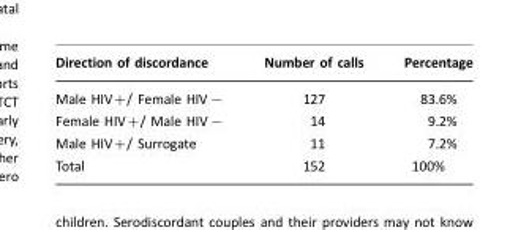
<table><thead><tr><td>Direction of discordance</td><td>Number of calls</td><td>Percentage</td></tr></thead><tbody><tr><td>Male HIV+/ Female HIV−</td><td>127</td><td>83.6%</td></tr><tr><td>Female HIV+/ Male HIV−</td><td>14</td><td>9.2%</td></tr><tr><td>Male HIV+/ Surrogate</td><td>11</td><td>7.2%</td></tr><tr><td>Total</td><td>152</td><td>100%</td></tr></tbody></table>